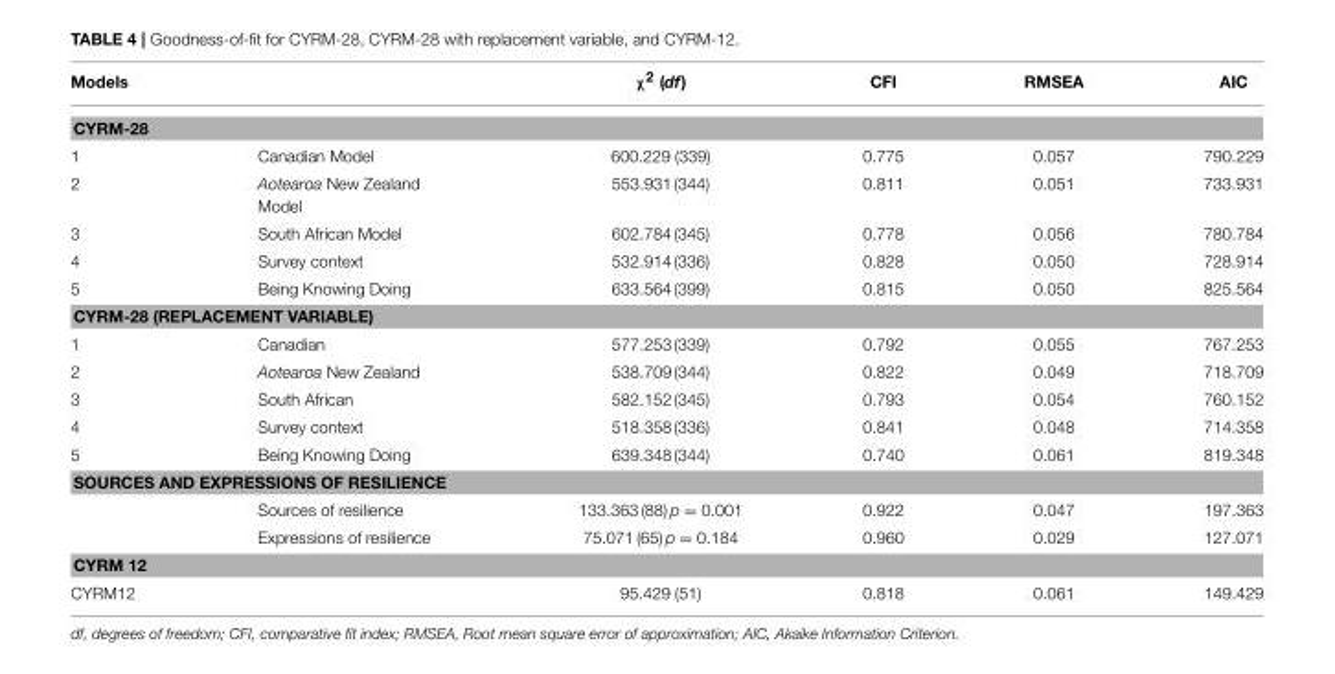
<table><thead><tr><td>Models</td><td></td><td>χ<sup>2</sup> (df)</td><td>CFI</td><td>RMSEA</td><td>AIC</td></tr></thead><tbody><tr><td colspan="6">CYRM-28</td></tr><tr><td>1</td><td>Canadian Model</td><td>600.229 (339)</td><td>0.775</td><td>0.057</td><td>790.229</td></tr><tr><td>2</td><td>Aotearoa New Zealand Model</td><td>553.931 (344)</td><td>0.811</td><td>0.051</td><td>733.931</td></tr><tr><td>3</td><td>South African Model</td><td>602.784 (345)</td><td>0.778</td><td>0.056</td><td>780.784</td></tr><tr><td>4</td><td>Survey context</td><td>532.914 (336)</td><td>0.828</td><td>0.050</td><td>728.914</td></tr><tr><td>5</td><td>Being Knowing Doing</td><td>633.564 (399)</td><td>0.815</td><td>0.050</td><td>825.564</td></tr><tr><td colspan="6">CYRM-28 (REPLACEMENT VARIABLE)</td></tr><tr><td>1</td><td>Canadian</td><td>577.253 (339)</td><td>0.792</td><td>0.055</td><td>767.253</td></tr><tr><td>2</td><td>Aotearoa New Zealand</td><td>538.709 (344)</td><td>0.822</td><td>0.049</td><td>718.709</td></tr><tr><td>3</td><td>South African</td><td>582.152 (345)</td><td>0.793</td><td>0.054</td><td>760.152</td></tr><tr><td>4</td><td>Survey context</td><td>518.358 (336)</td><td>0.841</td><td>0.048</td><td>714.358</td></tr><tr><td>5</td><td>Being Knowing Doing</td><td>639.348 (344)</td><td>0.740</td><td>0.061</td><td>819.348</td></tr><tr><td colspan="6">SOURCES AND EXPRESSIONS OF RESILIENCE</td></tr><tr><td></td><td>Sources of resilience</td><td>133.363 (88) p = 0.001</td><td>0.922</td><td>0.047</td><td>197.363</td></tr><tr><td></td><td>Expressions of resilience</td><td>75.071 (65) p = 0.184</td><td>0.960</td><td>0.029</td><td>127.071</td></tr><tr><td colspan="6">CYRM 12</td></tr><tr><td>CYRM12</td><td></td><td>95.429 (51)</td><td>0.818</td><td>0.061</td><td>149.429</td></tr></tbody></table>